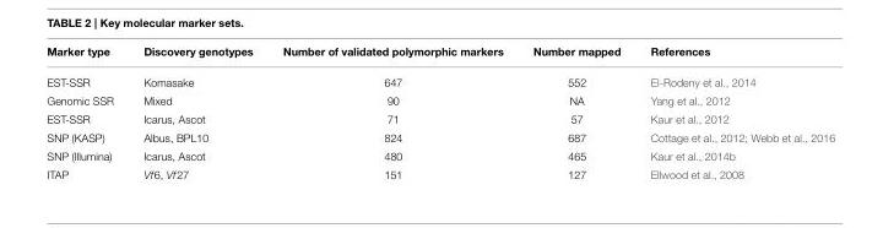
<table><thead><tr><td>Marker type</td><td>Discovery genotypes</td><td>Number of validated polymorphic markers</td><td>Number mapped</td><td>References</td></tr></thead><tbody><tr><td>EST-SSR</td><td>Komasake</td><td>647</td><td>552</td><td>El-Rodeny et al., 2014</td></tr><tr><td>Genomic SSR</td><td>Mixed</td><td>90</td><td>NA</td><td>Yang et al., 2012</td></tr><tr><td>EST-SSR</td><td>Icarus, Ascot</td><td>71</td><td>57</td><td>Kaur et al., 2012</td></tr><tr><td>SNP (KASP)</td><td>Albus, BPL10</td><td>824</td><td>687</td><td>Cottage et al., 2012; Webb et al., 2016</td></tr><tr><td>SNP (Illumina)</td><td>Icarus, Ascot</td><td>480</td><td>465</td><td>Kaur et al., 2014b</td></tr><tr><td>ITAP</td><td>Vf6, Vf27</td><td>151</td><td>127</td><td>Ellwood et al., 2008</td></tr></tbody></table>